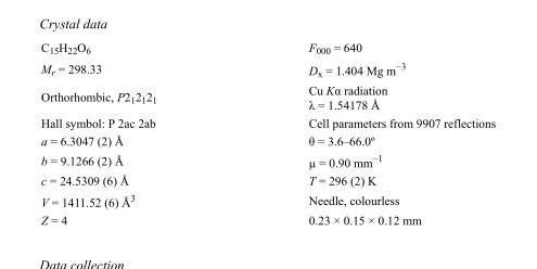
<table><tbody><tr><td>C<sub>15</sub>H<sub>22</sub>O<sub>6</sub></td><td>F<sub>000</sub> = 640</td></tr><tr><td>M<sub>r</sub> = 298.33</td><td>D<sub>x</sub> = 1.404 Mg m<sup>−3</sup></td></tr><tr><td>Orthorhombic, P2<sub>1</sub>2<sub>1</sub>2<sub>1</sub></td><td>Cu Kα radiation λ = 1.54178 Å</td></tr><tr><td>Hall symbol: P 2ac 2ab</td><td>Cell parameters from 9907 reflections</td></tr><tr><td>a = 6.3047 (2) Å</td><td>θ = 3.6–66.0º</td></tr><tr><td>b = 9.1266 (2) Å</td><td>µ = 0.90 mm<sup>−1</sup></td></tr><tr><td>c = 24.5309 (6) Å</td><td>T = 296 (2) K</td></tr><tr><td>V = 1411.52 (6) Å<sup>3</sup></td><td>Needle, colourless</td></tr><tr><td>Z = 4</td><td>0.23 × 0.15 × 0.12 mm</td></tr></tbody></table>